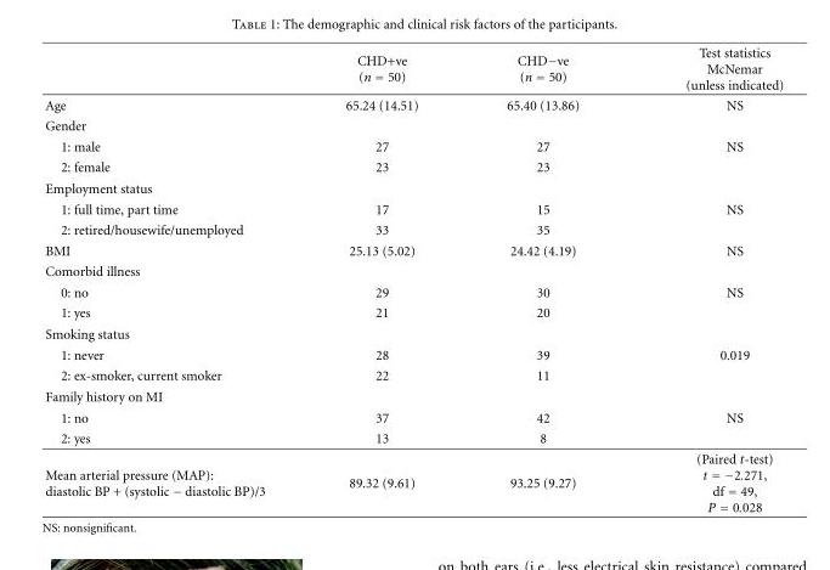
<table><thead><tr><td></td><td>CHD+ve (n = 50)</td><td>CHD−ve (n = 50)</td><td>Test statistics McNemar (unless indicated)</td></tr></thead><tbody><tr><td>Age</td><td>65.24 (14.51)</td><td>65.40 (13.86)</td><td>NS</td></tr><tr><td colspan="4">Gender</td></tr><tr><td>1: male</td><td>27</td><td>27</td><td>NS</td></tr><tr><td>2: female</td><td>23</td><td>23</td><td></td></tr><tr><td colspan="4">Employment status</td></tr><tr><td>1: full time, part time</td><td>17</td><td>15</td><td>NS</td></tr><tr><td>2: retired/housewife/unemployed</td><td>33</td><td>35</td><td></td></tr><tr><td>BMI</td><td>25.13 (5.02)</td><td>24.42 (4.19)</td><td>NS</td></tr><tr><td colspan="4">Comorbid illness</td></tr><tr><td>0: no</td><td>29</td><td>30</td><td>NS</td></tr><tr><td>1: yes</td><td>21</td><td>20</td><td></td></tr><tr><td colspan="4">Smoking status</td></tr><tr><td>1: never</td><td>28</td><td>39</td><td>0.019</td></tr><tr><td>2: ex-smoker, current smoker</td><td>22</td><td>11</td><td></td></tr><tr><td colspan="4">Family history on MI</td></tr><tr><td>1: no</td><td>37</td><td>42</td><td>NS</td></tr><tr><td>2: yes</td><td>13</td><td>8</td><td></td></tr><tr><td>Mean arterial pressure (MAP): diastolic BP + (systolic − diastolic BP)/3</td><td>89.32 (9.61)</td><td>93.25 (9.27)</td><td>(Paired t-test) t = −2.271, df = 49, P = 0.028</td></tr></tbody></table>